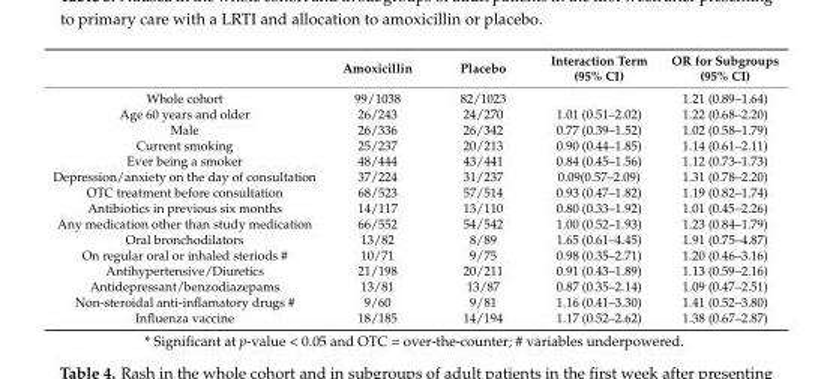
<table><thead><tr><td></td><td>Amoxicillin</td><td>Placebo</td><td>Interaction Term (95% CI)</td><td>OR for Subgroups (95% CI)</td></tr></thead><tbody><tr><td>Whole cohort</td><td>99/1038</td><td>82/1023</td><td></td><td>1.21 (0.89–1.64)</td></tr><tr><td>Age 60 years and older</td><td>26/243</td><td>24/270</td><td>1.01 (0.51–2.02)</td><td>1.22 (0.68–2.20)</td></tr><tr><td>Male</td><td>26/336</td><td>26/342</td><td>0.77 (0.39–1.52)</td><td>1.02 (0.58–1.79)</td></tr><tr><td>Current smoking</td><td>25/237</td><td>20/213</td><td>0.90 (0.44–1.85)</td><td>1.14 (0.61–2.11)</td></tr><tr><td>Ever being a smoker</td><td>48/444</td><td>43/441</td><td>0.84 (0.45–1.56)</td><td>1.12 (0.73–1.73)</td></tr><tr><td>Depression/anxiety on the day of consultation</td><td>37/224</td><td>31/237</td><td>0.09(0.57–2.09)</td><td>1.31 (0.78–2.20)</td></tr><tr><td>OTC treatment before consultation</td><td>68/523</td><td>57/514</td><td>0.93 (0.47–1.82)</td><td>1.19 (0.82–1.74)</td></tr><tr><td>Antibiotics in previous six months</td><td>14/117</td><td>13/110</td><td>0.80 (0.33–1.92)</td><td>1.01 (0.45–2.26)</td></tr><tr><td>Any medication other than study medication</td><td>66/552</td><td>54/542</td><td>1.00 (0.52–1.93)</td><td>1.23 (0.84–1.79)</td></tr><tr><td>Oral bronchodilators</td><td>13/82</td><td>8/89</td><td>1.65 (0.61–4.45)</td><td>1.91 (0.75–4.87)</td></tr><tr><td>On regular oral or inhaled steriods #</td><td>10/71</td><td>9/75</td><td>0.98 (0.35–2.71)</td><td>1.20 (0.46–3.16)</td></tr><tr><td>Antihypertensive/Diuretics</td><td>21/198</td><td>20/211</td><td>0.91 (0.43–1.89)</td><td>1.13 (0.59–2.16)</td></tr><tr><td>Antidepressant/benzodiazepams</td><td>13/81</td><td>13/87</td><td>0.87 (0.35–2.14)</td><td>1.09 (0.47–2.51)</td></tr><tr><td>Non-steroidal anti-inflamatory drugs #</td><td>9/60</td><td>9/81</td><td>1.16 (0.41–3.30)</td><td>1.41 (0.52–3.80)</td></tr><tr><td>Influenza vaccine</td><td>18/185</td><td>14/194</td><td>1.17 (0.52–2.62)</td><td>1.38 (0.67–2.87)</td></tr></tbody></table>